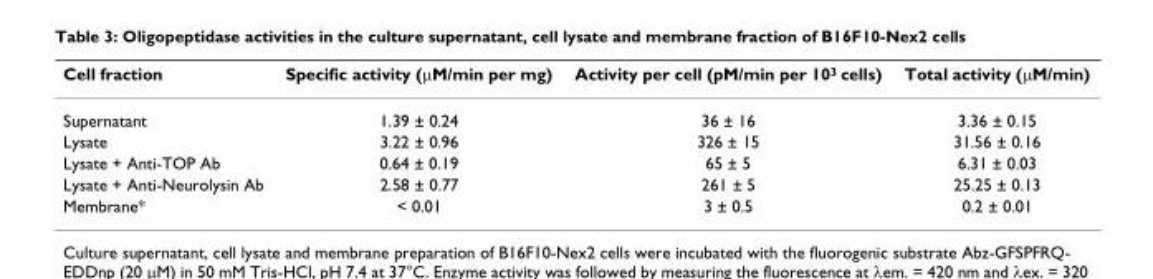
<table><thead><tr><td>Cell fraction</td><td>Specific activity (μM/min per mg)</td><td>Activity per cell (pM/min per 10<sup>3</sup> cells)</td><td>Total activity (μM/min)</td></tr></thead><tbody><tr><td>Supernatant</td><td>1.39 ± 0.24</td><td>36 ± 16</td><td>3.36 ± 0.15</td></tr><tr><td>Lysate</td><td>3.22 ± 0.96</td><td>326 ± 15</td><td>31.56 ± 0.16</td></tr><tr><td>Lysate + Anti-TOP Ab</td><td>0.64 ± 0.19</td><td>65 ± 5</td><td>6.31 ± 0.03</td></tr><tr><td>Lysate + Anti-Neurolysin Ab</td><td>2.58 ± 0.77</td><td>261 ± 5</td><td>25.25 ± 0.13</td></tr><tr><td>Membrane*</td><td>&lt; 0.01</td><td>3 ± 0.5</td><td>0.2 ± 0.01</td></tr></tbody></table>